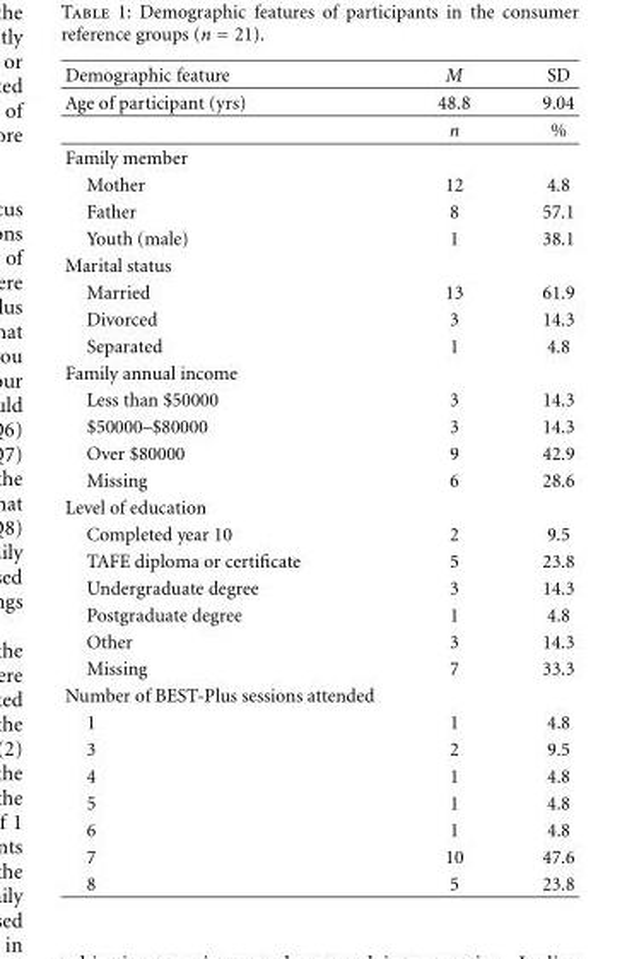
<table><thead><tr><td>Demographic feature</td><td>M</td><td>SD</td></tr></thead><tbody><tr><td rowspan="2">Age of participant (yrs)</td><td>48.8</td><td>9.04</td></tr><tr><td>n</td><td>%</td></tr><tr><td colspan="3">Family member</td></tr><tr><td>Mother</td><td>12</td><td>4.8</td></tr><tr><td>Father</td><td>8</td><td>57.1</td></tr><tr><td>Youth (male)</td><td>1</td><td>38.1</td></tr><tr><td colspan="3">Marital status</td></tr><tr><td>Married</td><td>13</td><td>61.9</td></tr><tr><td>Divorced</td><td>3</td><td>14.3</td></tr><tr><td>Separated</td><td>1</td><td>4.8</td></tr><tr><td colspan="3">Family annual income</td></tr><tr><td>Less than $50000</td><td>3</td><td>14.3</td></tr><tr><td>$50000–$80000</td><td>3</td><td>14.3</td></tr><tr><td>Over $80000</td><td>9</td><td>42.9</td></tr><tr><td>Missing</td><td>6</td><td>28.6</td></tr><tr><td colspan="3">Level of education</td></tr><tr><td>Completed year 10</td><td>2</td><td>9.5</td></tr><tr><td>TAFE diploma or certificate</td><td>5</td><td>23.8</td></tr><tr><td>Undergraduate degree</td><td>3</td><td>14.3</td></tr><tr><td>Postgraduate degree</td><td>1</td><td>4.8</td></tr><tr><td>Other</td><td>3</td><td>14.3</td></tr><tr><td>Missing</td><td>7</td><td>33.3</td></tr><tr><td colspan="3">Number of BEST-Plus sessions attended</td></tr><tr><td>1</td><td>1</td><td>4.8</td></tr><tr><td>3</td><td>2</td><td>9.5</td></tr><tr><td>4</td><td>1</td><td>4.8</td></tr><tr><td>5</td><td>1</td><td>4.8</td></tr><tr><td>6</td><td>1</td><td>4.8</td></tr><tr><td>7</td><td>10</td><td>47.6</td></tr><tr><td>8</td><td>5</td><td>23.8</td></tr></tbody></table>